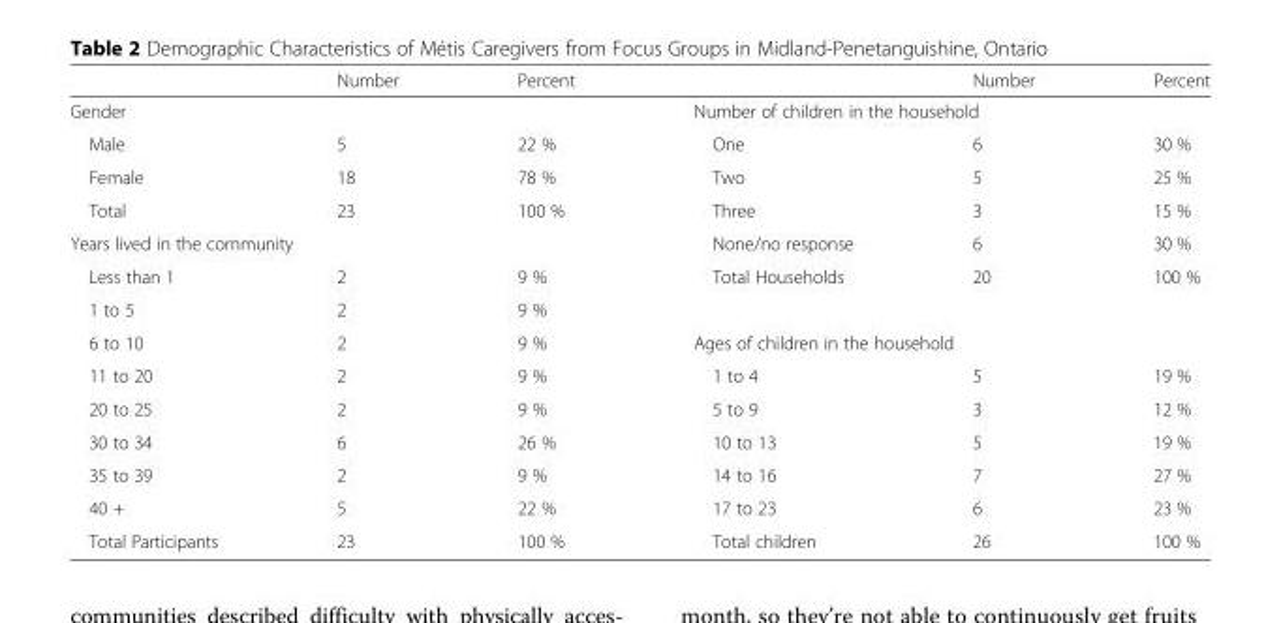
<table><thead><tr><td></td><td>Number</td><td>Percent</td><td></td><td>Number</td><td>Percent</td></tr></thead><tbody><tr><td>Gender</td><td></td><td></td><td colspan="3">Number of children in the household</td></tr><tr><td>Male</td><td>5</td><td>22 %</td><td>One</td><td>6</td><td>30 %</td></tr><tr><td>Female</td><td>18</td><td>78 %</td><td>Two</td><td>5</td><td>25 %</td></tr><tr><td>Total</td><td>23</td><td>100 %</td><td>Three</td><td>3</td><td>15 %</td></tr><tr><td colspan="3">Years lived in the community</td><td>None/no response</td><td>6</td><td>30 %</td></tr><tr><td>Less than 1</td><td>2</td><td>9 %</td><td>Total Households</td><td>20</td><td>100 %</td></tr><tr><td>1 to 5</td><td>2</td><td>9 %</td><td></td><td></td><td></td></tr><tr><td>6 to 10</td><td>2</td><td>9 %</td><td colspan="3">Ages of children in the household</td></tr><tr><td>11 to 20</td><td>2</td><td>9 %</td><td>1 to 4</td><td>5</td><td>19 %</td></tr><tr><td>20 to 25</td><td>2</td><td>9 %</td><td>5 to 9</td><td>3</td><td>12 %</td></tr><tr><td>30 to 34</td><td>6</td><td>26 %</td><td>10 to 13</td><td>5</td><td>19 %</td></tr><tr><td>35 to 39</td><td>2</td><td>9 %</td><td>14 to 16</td><td>7</td><td>27 %</td></tr><tr><td>40 +</td><td>5</td><td>22 %</td><td>17 to 23</td><td>6</td><td>23 %</td></tr><tr><td>Total Participants</td><td>23</td><td>100 %</td><td>Total children</td><td>26</td><td>100 %</td></tr></tbody></table>